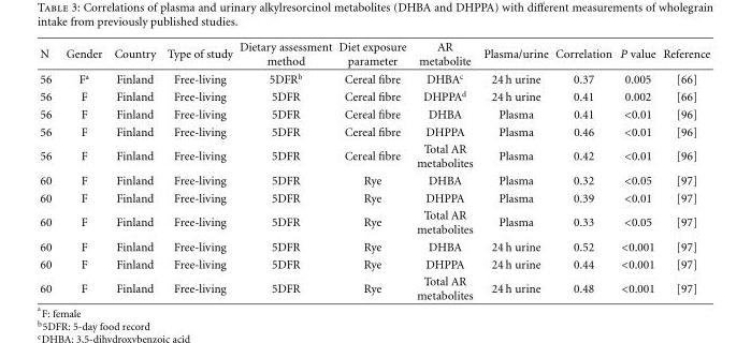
<table><thead><tr><td>N</td><td>Gender</td><td>Country</td><td>Type of study</td><td>Dietary assessment method</td><td>Diet exposure parameter</td><td>AR metabolite</td><td>Plasma/urine</td><td>Correlation</td><td>P value</td><td>Reference</td></tr></thead><tbody><tr><td>56</td><td>F<sup>a</sup></td><td>Finland</td><td>Free-living</td><td>5DFR<sup>b</sup></td><td>Cereal fibre</td><td>DHBA<sup>c</sup></td><td>24 h urine</td><td>0.37</td><td>0.005</td><td>[66]</td></tr><tr><td>56</td><td>F</td><td>Finland</td><td>Free-living</td><td>5DFR</td><td>Cereal fibre</td><td>DHPPA<sup>d</sup></td><td>24 h urine</td><td>0.41</td><td>0.002</td><td>[66]</td></tr><tr><td>56</td><td>F</td><td>Finland</td><td>Free-living</td><td>5DFR</td><td>Cereal fibre</td><td>DHBA</td><td>Plasma</td><td>0.41</td><td>&lt;0.01</td><td>[96]</td></tr><tr><td>56</td><td>F</td><td>Finland</td><td>Free-living</td><td>5DFR</td><td>Cereal fibre</td><td>DHPPA</td><td>Plasma</td><td>0.46</td><td>&lt;0.01</td><td>[96]</td></tr><tr><td>56</td><td>F</td><td>Finland</td><td>Free-living</td><td>5DFR</td><td>Cereal fibre</td><td>Total AR metabolites</td><td>Plasma</td><td>0.42</td><td>&lt;0.01</td><td>[96]</td></tr><tr><td>60</td><td>F</td><td>Finland</td><td>Free-living</td><td>5DFR</td><td>Rye</td><td>DHBA</td><td>Plasma</td><td>0.32</td><td>&lt;0.05</td><td>[97]</td></tr><tr><td>60</td><td>F</td><td>Finland</td><td>Free-living</td><td>5DFR</td><td>Rye</td><td>DHPPA</td><td>Plasma</td><td>0.39</td><td>&lt;0.01</td><td>[97]</td></tr><tr><td>60</td><td>F</td><td>Finland</td><td>Free-living</td><td>5DFR</td><td>Rye</td><td>Total AR metabolites</td><td>Plasma</td><td>0.33</td><td>&lt;0.05</td><td>[97]</td></tr><tr><td>60</td><td>F</td><td>Finland</td><td>Free-living</td><td>5DFR</td><td>Rye</td><td>DHBA</td><td>24 h urine</td><td>0.52</td><td>&lt;0.001</td><td>[97]</td></tr><tr><td>60</td><td>F</td><td>Finland</td><td>Free-living</td><td>5DFR</td><td>Rye</td><td>DHPPA</td><td>24 h urine</td><td>0.44</td><td>&lt;0.001</td><td>[97]</td></tr><tr><td>60</td><td>F</td><td>Finland</td><td>Free-living</td><td>5DFR</td><td>Rye</td><td>Total AR metabolites</td><td>24 h urine</td><td>0.48</td><td>&lt;0.001</td><td>[97]</td></tr></tbody></table>